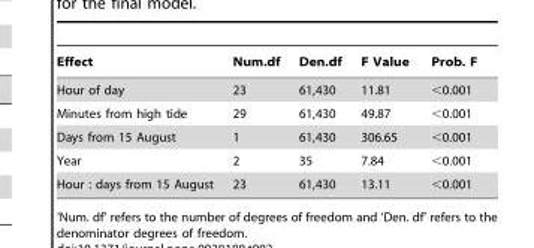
<table><thead><tr><td>Effect</td><td>Num.df</td><td>Den.df</td><td>F Value</td><td>Prob. F</td></tr></thead><tbody><tr><td>Hour of day</td><td>23</td><td>61,430</td><td>11.81</td><td>&lt;0.001</td></tr><tr><td>Minutes from high tide</td><td>29</td><td>61,430</td><td>49.87</td><td>&lt;0.001</td></tr><tr><td>Days from 15 August</td><td>1</td><td>61,430</td><td>306.65</td><td>&lt;0.001</td></tr><tr><td>Year</td><td>2</td><td>35</td><td>7.84</td><td>&lt;0.001</td></tr><tr><td>Hour : days from 15 August</td><td>23</td><td>61,430</td><td>13.11</td><td>&lt;0.001</td></tr></tbody></table>